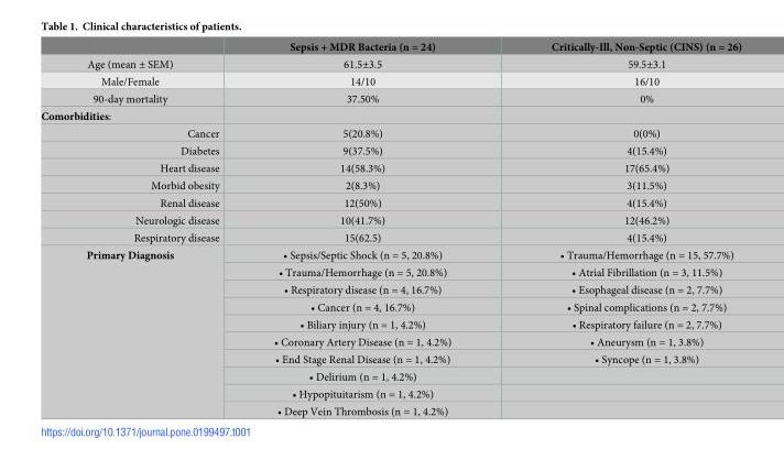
<table><thead><tr><td></td><td>Sepsis + MDR Bacteria (n = 24)</td><td>Critically-Ill, Non-Septic (CINS) (n = 26)</td></tr></thead><tbody><tr><td>Age (mean ± SEM)</td><td>61.5±3.5</td><td>59.5±3.1</td></tr><tr><td>Male/Female</td><td>14/10</td><td>16/10</td></tr><tr><td>90-day mortality</td><td>37.50%</td><td>0%</td></tr><tr><td colspan="3">Comorbidities:</td></tr><tr><td>Cancer</td><td>5(20.8%)</td><td>0(0%)</td></tr><tr><td>Diabetes</td><td>9(37.5%)</td><td>4(15.4%)</td></tr><tr><td>Heart disease</td><td>14(58.3%)</td><td>17(65.4%)</td></tr><tr><td>Morbid obesity</td><td>2(8.3%)</td><td>3(11.5%)</td></tr><tr><td>Renal disease</td><td>12(50%)</td><td>4(15.4%)</td></tr><tr><td>Neurologic disease</td><td>10(41.7%)</td><td>12(46.2%)</td></tr><tr><td>Respiratory disease</td><td>15(62.5)</td><td>4(15.4%)</td></tr><tr><td rowspan="10">Primary Diagnosis</td><td>• Sepsis/Septic Shock (n = 5, 20.8%)</td><td>• Trauma/Hemorrhage (n = 15, 57.7%)</td></tr><tr><td>• Trauma/Hemorrhage (n = 5, 20.8%)</td><td>• Atrial Fibrillation (n = 3, 11.5%)</td></tr><tr><td>• Respiratory disease (n = 4, 16.7%)</td><td>• Esophageal disease (n = 2, 7.7%)</td></tr><tr><td>• Cancer (n = 4, 16.7%)</td><td>• Spinal complications (n = 2, 7.7%)</td></tr><tr><td>• Biliary injury (n = 1, 4.2%)</td><td>• Respiratory failure (n = 2, 7.7%)</td></tr><tr><td>• Coronary Artery Disease (n = 1, 4.2%)</td><td>• Aneurysm (n = 1, 3.8%)</td></tr><tr><td>• End Stage Renal Disease (n = 1, 4.2%)</td><td>• Syncope (n = 1, 3.8%)</td></tr><tr><td>• Delirium (n = 1, 4.2%)</td><td></td></tr><tr><td>• Hypopituitarism (n = 1, 4.2%)</td><td></td></tr><tr><td>• Deep Vein Thrombosis (n = 1, 4.2%)</td><td></td></tr></tbody></table>